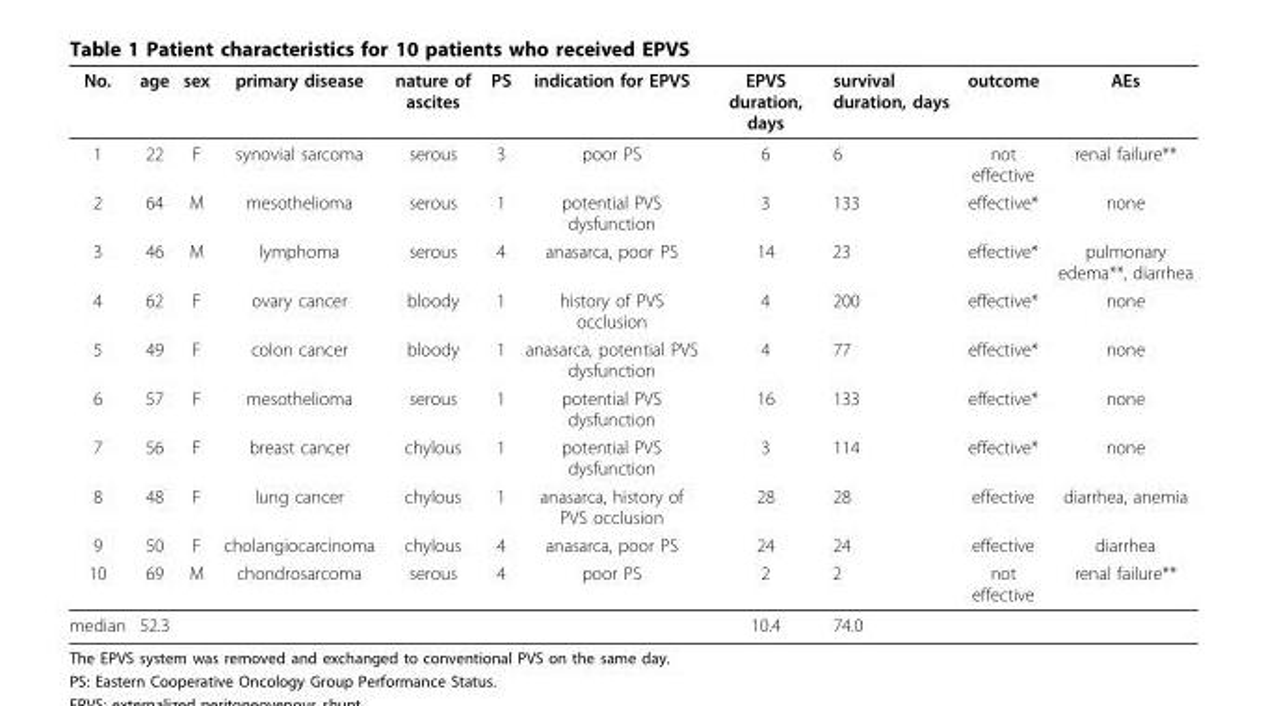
<table><thead><tr><td>No.</td><td>age</td><td>sex</td><td>primary disease</td><td>nature of ascites</td><td>PS</td><td>indication for EPVS</td><td>EPVS duration, days</td><td>survival duration, days</td><td>outcome</td><td>AEs</td></tr></thead><tbody><tr><td>1</td><td>22</td><td>F</td><td>synovial sarcoma</td><td>serous</td><td>3</td><td>poor PS</td><td>6</td><td>6</td><td>not effective</td><td>renal failure**</td></tr><tr><td>2</td><td>64</td><td>M</td><td>mesothelioma</td><td>serous</td><td>1</td><td>potential PVS dysfunction</td><td>3</td><td>133</td><td>effective*</td><td>none</td></tr><tr><td>3</td><td>46</td><td>M</td><td>lymphoma</td><td>serous</td><td>4</td><td>anasarca, poor PS</td><td>14</td><td>23</td><td>effective*</td><td>pulmonary edema**, diarrhea</td></tr><tr><td>4</td><td>62</td><td>F</td><td>ovary cancer</td><td>bloody</td><td>1</td><td>history of PVS occlusion</td><td>4</td><td>200</td><td>effective*</td><td>none</td></tr><tr><td>5</td><td>49</td><td>F</td><td>colon cancer</td><td>bloody</td><td>1</td><td>anasarca, potential PVS dysfunction</td><td>4</td><td>77</td><td>effective*</td><td>none</td></tr><tr><td>6</td><td>57</td><td>F</td><td>mesothelioma</td><td>serous</td><td>1</td><td>potential PVS dysfunction</td><td>16</td><td>133</td><td>effective*</td><td>none</td></tr><tr><td>7</td><td>56</td><td>F</td><td>breast cancer</td><td>chylous</td><td>1</td><td>potential PVS dysfunction</td><td>3</td><td>114</td><td>effective*</td><td>none</td></tr><tr><td>8</td><td>48</td><td>F</td><td>lung cancer</td><td>chylous</td><td>1</td><td>anasarca, history of PVS occlusion</td><td>28</td><td>28</td><td>effective</td><td>diarrhea, anemia</td></tr><tr><td>9</td><td>50</td><td>F</td><td>cholangiocarcinoma</td><td>chylous</td><td>4</td><td>anasarca, poor PS</td><td>24</td><td>24</td><td>effective</td><td>diarrhea</td></tr><tr><td>10</td><td>69</td><td>M</td><td>chondrosarcoma</td><td>serous</td><td>4</td><td>poor PS</td><td>2</td><td>2</td><td>not effective</td><td>renal failure**</td></tr><tr><td>median</td><td>52.3</td><td></td><td></td><td></td><td></td><td></td><td>10.4</td><td>74.0</td><td></td><td></td></tr></tbody></table>